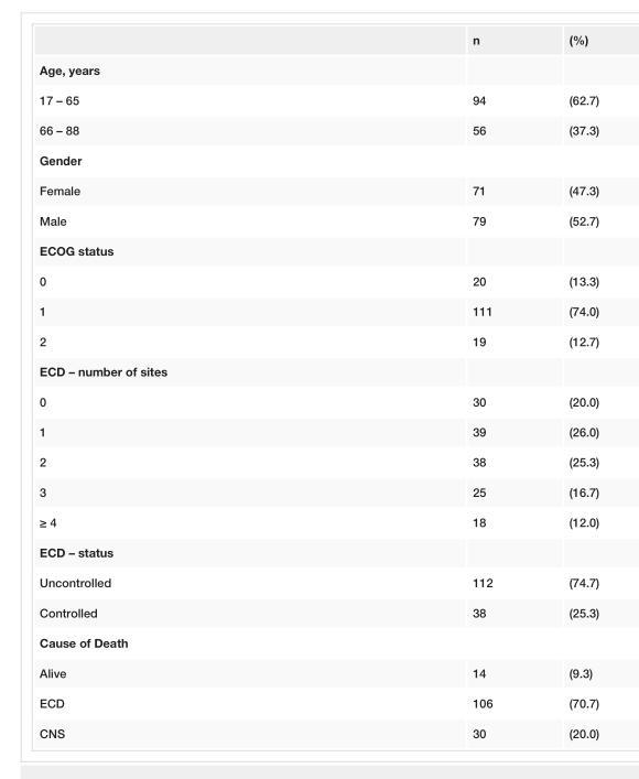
<table><thead><tr><td></td><td>n</td><td>(%)</td></tr></thead><tbody><tr><td colspan="3">Age, years</td></tr><tr><td>17 – 65</td><td>94</td><td>(62.7)</td></tr><tr><td>66 – 88</td><td>56</td><td>(37.3)</td></tr><tr><td colspan="3">Gender</td></tr><tr><td>Female</td><td>71</td><td>(47.3)</td></tr><tr><td>Male</td><td>79</td><td>(52.7)</td></tr><tr><td colspan="3">ECOG status</td></tr><tr><td>0</td><td>20</td><td>(13.3)</td></tr><tr><td>1</td><td>111</td><td>(74.0)</td></tr><tr><td>2</td><td>19</td><td>(12.7)</td></tr><tr><td colspan="3">ECD – number of sites</td></tr><tr><td>0</td><td>30</td><td>(20.0)</td></tr><tr><td>1</td><td>39</td><td>(26.0)</td></tr><tr><td>2</td><td>38</td><td>(25.3)</td></tr><tr><td>3</td><td>25</td><td>(16.7)</td></tr><tr><td>≥ 4</td><td>18</td><td>(12.0)</td></tr><tr><td colspan="3">ECD – status</td></tr><tr><td>Uncontrolled</td><td>112</td><td>(74.7)</td></tr><tr><td>Controlled</td><td>38</td><td>(25.3)</td></tr><tr><td colspan="3">Cause of Death</td></tr><tr><td>Alive</td><td>14</td><td>(9.3)</td></tr><tr><td>ECD</td><td>106</td><td>(70.7)</td></tr><tr><td>CNS</td><td>30</td><td>(20.0)</td></tr></tbody></table>